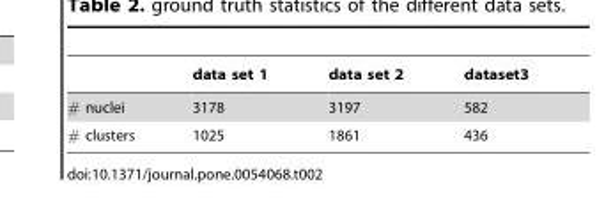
<table><thead><tr><td></td><td>data set 1</td><td>data set 2</td><td>dataset3</td></tr></thead><tbody><tr><td># nuclei</td><td>3178</td><td>3197</td><td>582</td></tr><tr><td># clusters</td><td>1025</td><td>1861</td><td>436</td></tr></tbody></table>